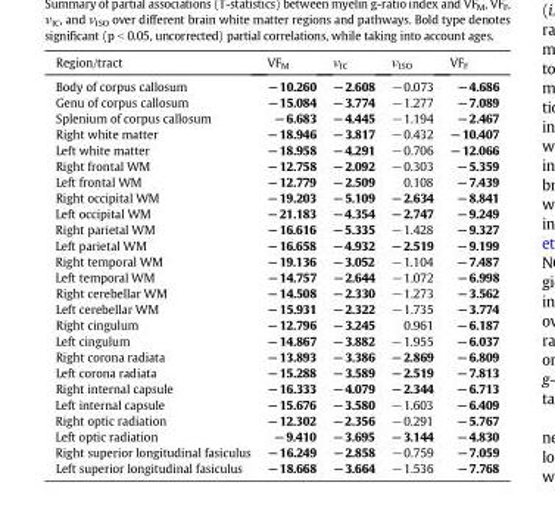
<table><thead><tr><td>Region/tract</td><td>VF<sub>M</sub></td><td>ν<sub>IC</sub></td><td>ν<sub>ISO</sub></td><td>VF<sub>F</sub></td></tr></thead><tbody><tr><td>Body of corpus callosum</td><td>−10.260</td><td>−2.608</td><td>−0.073</td><td>−4.686</td></tr><tr><td>Genu of corpus callosum</td><td>−15.084</td><td>−3.774</td><td>−1.277</td><td>−7.089</td></tr><tr><td>Splenium of corpus callosum</td><td>−6.683</td><td>−4.445</td><td>−1.194</td><td>−2.467</td></tr><tr><td>Right white matter</td><td>−18.946</td><td>−3.817</td><td>−0.432</td><td>−10.407</td></tr><tr><td>Left white matter</td><td>−18.958</td><td>−4.291</td><td>−0.706</td><td>−12.066</td></tr><tr><td>Right frontal WM</td><td>−12.758</td><td>−2.092</td><td>−0.303</td><td>−5.359</td></tr><tr><td>Left frontal WM</td><td>−12.779</td><td>−2.509</td><td>0.108</td><td>−7.439</td></tr><tr><td>Right occipital WM</td><td>−19.203</td><td>−5.109</td><td>−2.634</td><td>−8.841</td></tr><tr><td>Left occipital WM</td><td>−21.183</td><td>−4.354</td><td>−2.747</td><td>−9.249</td></tr><tr><td>Right parietal WM</td><td>−16.616</td><td>−5.335</td><td>−1.428</td><td>−9.327</td></tr><tr><td>Left parietal WM</td><td>−16.658</td><td>−4.932</td><td>−2.519</td><td>−9.199</td></tr><tr><td>Right temporal WM</td><td>−19.136</td><td>−3.052</td><td>−1.104</td><td>−7.487</td></tr><tr><td>Left temporal WM</td><td>−14.757</td><td>−2.644</td><td>−1.072</td><td>−6.998</td></tr><tr><td>Right cerebellar WM</td><td>−14.508</td><td>−2.330</td><td>−1.273</td><td>−3.562</td></tr><tr><td>Left cerebellar WM</td><td>−15.931</td><td>−2.322</td><td>−1.735</td><td>−3.774</td></tr><tr><td>Right cingulum</td><td>−12.796</td><td>−3.245</td><td>0.961</td><td>−6.187</td></tr><tr><td>Left cingulum</td><td>−14.867</td><td>−3.882</td><td>−1.955</td><td>−6.037</td></tr><tr><td>Right corona radiata</td><td>−13.893</td><td>−3.386</td><td>−2.869</td><td>−6.809</td></tr><tr><td>Left corona radiata</td><td>−15.288</td><td>−3.589</td><td>−2.519</td><td>−7.813</td></tr><tr><td>Right internal capsule</td><td>−16.333</td><td>−4.079</td><td>−2.344</td><td>−6.713</td></tr><tr><td>Left internal capsule</td><td>−15.676</td><td>−3.580</td><td>−1.603</td><td>−6.409</td></tr><tr><td>Right optic radiation</td><td>−12.302</td><td>−2.356</td><td>−0.291</td><td>−5.767</td></tr><tr><td>Left optic radiation</td><td>−9.410</td><td>−3.695</td><td>−3.144</td><td>−4.830</td></tr><tr><td>Right superior longitudinal fasiculus</td><td>−16.249</td><td>−2.858</td><td>−0.759</td><td>−7.059</td></tr><tr><td>Left superior longitudinal fasiculus</td><td>−18.668</td><td>−3.664</td><td>−1.536</td><td>−7.768</td></tr></tbody></table>